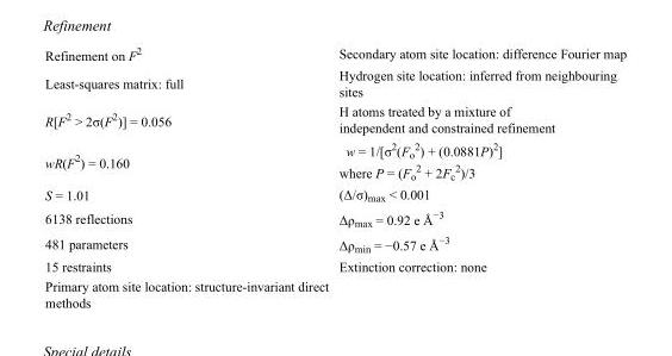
<table><tbody><tr><td>Refinement on F<sup>2</sup></td><td>Secondary atom site location: difference Fourier map</td></tr><tr><td>Least-squares matrix: full</td><td>Hydrogen site location: inferred from neighbouring sites</td></tr><tr><td>R[F<sup>2</sup> &gt; 2σ(F<sup>2</sup>)] = 0.056</td><td>H atoms treated by a mixture of independent and constrained refinement</td></tr><tr><td>wR(F<sup>2</sup>) = 0.160</td><td>w = 1/[σ<sup>2</sup>(F<sub>o</sub> <sup>2</sup>) + (0.0881P)<sup>2</sup>] where P = (F<sub>o</sub> <sup>2</sup> + 2F<sub>c</sub> <sup>2</sup>)/3</td></tr><tr><td>S = 1.01</td><td>(Δ/σ)<sub>max</sub> &lt; 0.001</td></tr><tr><td>6138 reflections</td><td>Δρ<sub>max</sub> = 0.92 e Å<sup>−3</sup></td></tr><tr><td>481 parameters</td><td>Δρ<sub>min</sub> = −0.57 e Å<sup>−3</sup></td></tr><tr><td>15 restraints</td><td>Extinction correction: none</td></tr><tr><td>Primary atom site location: structure-invariant direct methods</td><td></td></tr></tbody></table>